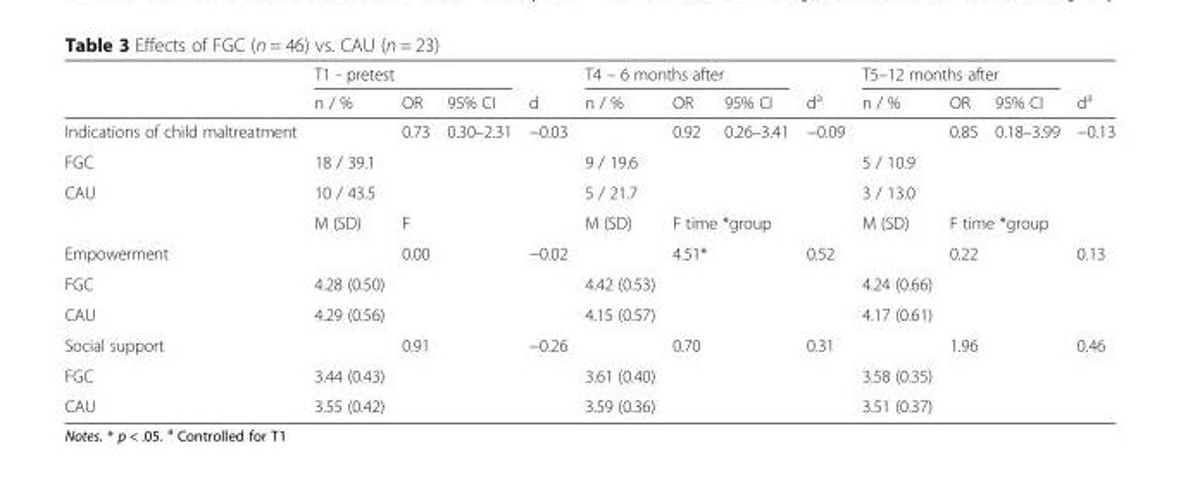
<table><thead><tr><td rowspan="2"></td><td colspan="3">T1 - pretest</td><td rowspan="2">d</td><td colspan="3">T4 – 6 months after</td><td rowspan="2">d<sup>a</sup></td><td colspan="3">T5–12 months after</td><td rowspan="2">d<sup>a</sup></td></tr><tr><td>n / %</td><td>OR</td><td>95% CI</td><td>n / %</td><td>OR</td><td>95% CI</td><td>n / %</td><td>OR</td><td>95% CI</td></tr></thead><tbody><tr><td>Indications of child maltreatment</td><td></td><td>0.73</td><td>0.30–2.31</td><td>−0.03</td><td></td><td>0.92</td><td>0.26–3.41</td><td>−0.09</td><td></td><td>0.85</td><td>0.18–3.99</td><td>−0.13</td></tr><tr><td>FGC</td><td>18 / 39.1</td><td></td><td></td><td></td><td>9 / 19.6</td><td></td><td></td><td></td><td>5 / 10.9</td><td></td><td></td><td></td></tr><tr><td rowspan="2">CAU</td><td>10 / 43.5</td><td></td><td></td><td></td><td>5 / 21.7</td><td></td><td></td><td></td><td>3 / 13.0</td><td></td><td></td><td></td></tr><tr><td>M (SD)</td><td>F</td><td></td><td></td><td>M (SD)</td><td colspan="2">F time *group</td><td></td><td>M (SD)</td><td colspan="2">F time *group</td><td></td></tr><tr><td>Empowerment</td><td></td><td>0.00</td><td></td><td>−0.02</td><td></td><td>4.51*</td><td></td><td>0.52</td><td></td><td>0.22</td><td></td><td>0.13</td></tr><tr><td>FGC</td><td>4.28 (0.50)</td><td></td><td></td><td></td><td>4.42 (0.53)</td><td></td><td></td><td></td><td>4.24 (0.66)</td><td></td><td></td><td></td></tr><tr><td>CAU</td><td>4.29 (0.56)</td><td></td><td></td><td></td><td>4.15 (0.57)</td><td></td><td></td><td></td><td>4.17 (0.61)</td><td></td><td></td><td></td></tr><tr><td>Social support</td><td></td><td>0.91</td><td></td><td>−0.26</td><td></td><td>0.70</td><td></td><td>0.31</td><td></td><td>1.96</td><td></td><td>0.46</td></tr><tr><td>FGC</td><td>3.44 (0.43)</td><td></td><td></td><td></td><td>3.61 (0.40)</td><td></td><td></td><td></td><td>3.58 (0.35)</td><td></td><td></td><td></td></tr><tr><td>CAU</td><td>3.55 (0.42)</td><td></td><td></td><td></td><td>3.59 (0.36)</td><td></td><td></td><td></td><td>3.51 (0.37)</td><td></td><td></td><td></td></tr></tbody></table>